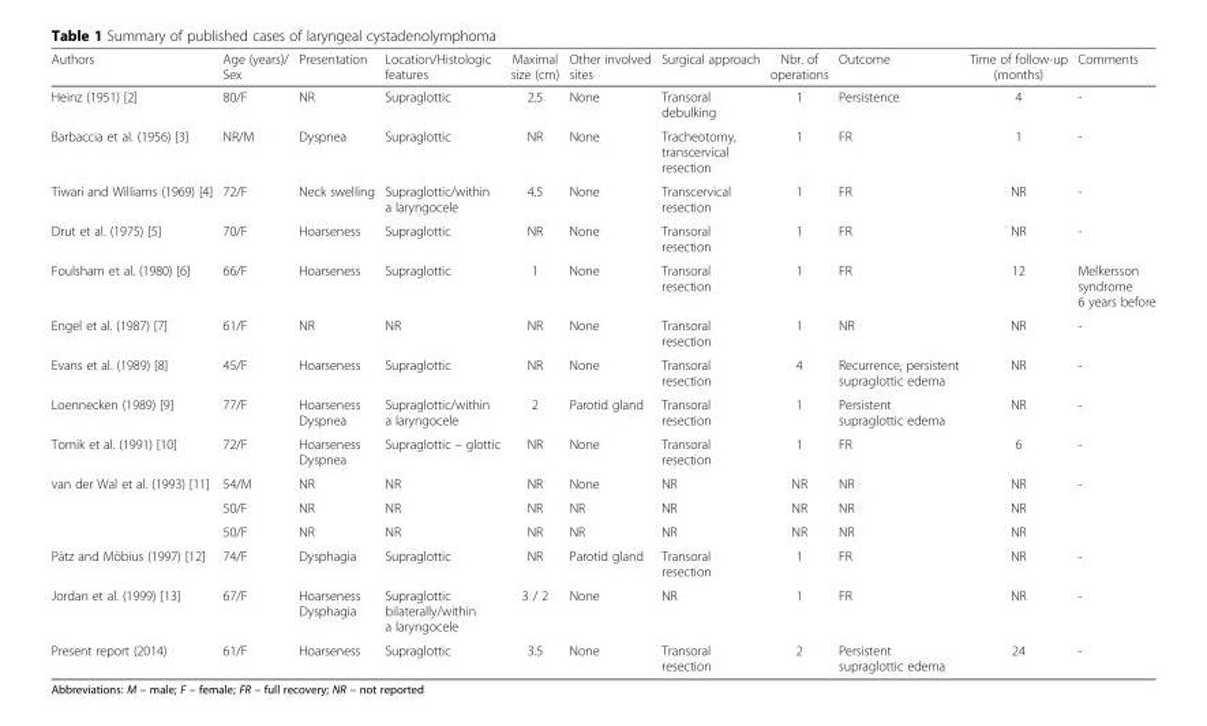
<table><thead><tr><td>Authors</td><td>Age (years)/ Sex</td><td>Presentation</td><td>Location/Histologic features</td><td>Maximal size (cm)</td><td>Other involved sites</td><td>Surgical approach</td><td>Nbr. of operations</td><td>Outcome</td><td>Time of follow-up (months)</td><td>Comments</td></tr></thead><tbody><tr><td>Heinz (1951) [2]</td><td>80/F</td><td>NR</td><td>Supraglottic</td><td>2.5</td><td>None</td><td>Transoral debulking</td><td>1</td><td>Persistence</td><td>4</td><td>-</td></tr><tr><td>Barbaccia et al. (1956) [3]</td><td>NR/M</td><td>Dyspnea</td><td>Supraglottic</td><td>NR</td><td>None</td><td>Tracheotomy, transcervical resection</td><td>1</td><td>FR</td><td>1</td><td>-</td></tr><tr><td>Tiwari and Williams (1969) [4]</td><td>72/F</td><td>Neck swelling</td><td>Supraglottic/within a laryngocele</td><td>4.5</td><td>None</td><td>Transcervical resection</td><td>1</td><td>FR</td><td>NR</td><td>-</td></tr><tr><td>Drut et al. (1975) [5]</td><td>70/F</td><td>Hoarseness</td><td>Supraglottic</td><td>NR</td><td>None</td><td>Transoral resection</td><td>1</td><td>FR</td><td>NR</td><td>-</td></tr><tr><td>Foulsham et al. (1980) [6]</td><td>66/F</td><td>Hoarseness</td><td>Supraglottic</td><td>1</td><td>None</td><td>Transoral resection</td><td>1</td><td>FR</td><td>12</td><td>Melkersson syndrome 6 years before</td></tr><tr><td>Engel et al. (1987) [7]</td><td>61/F</td><td>NR</td><td>NR</td><td>NR</td><td>None</td><td>Transoral resection</td><td>1</td><td>NR</td><td>NR</td><td>-</td></tr><tr><td>Evans et al. (1989) [8]</td><td>45/F</td><td>Hoarseness</td><td>Supraglottic</td><td>NR</td><td>None</td><td>Transoral resection</td><td>4</td><td>Recurrence, persistent supraglottic edema</td><td>NR</td><td>-</td></tr><tr><td>Loennecken (1989) [9]</td><td>77/F</td><td>Hoarseness Dyspnea</td><td>Supraglottic/within a laryngocele</td><td>2</td><td>Parotid gland</td><td>Transoral resection</td><td>1</td><td>Persistent supraglottic edema</td><td>NR</td><td>-</td></tr><tr><td>Tomik et al. (1991) [10]</td><td>72/F</td><td>Hoarseness Dyspnea</td><td>Supraglottic – glottic</td><td>NR</td><td>None</td><td>Transoral resection</td><td>1</td><td>FR</td><td>6</td><td>-</td></tr><tr><td rowspan="3">van der Wal et al. (1993) [11]</td><td>54/M</td><td>NR</td><td>NR</td><td>NR</td><td>None</td><td>NR</td><td>NR</td><td>NR</td><td>NR</td><td rowspan="3">-</td></tr><tr><td>50/F</td><td>NR</td><td>NR</td><td>NR</td><td>NR</td><td>NR</td><td>NR</td><td>NR</td><td>NR</td></tr><tr><td>50/F</td><td>NR</td><td>NR</td><td>NR</td><td>NR</td><td>NR</td><td>NR</td><td>NR</td><td>NR</td></tr><tr><td>Pätz and Möbius (1997) [12]</td><td>74/F</td><td>Dysphagia</td><td>Supraglottic</td><td>NR</td><td>Parotid gland</td><td>Transoral resection</td><td>1</td><td>FR</td><td>NR</td><td>-</td></tr><tr><td>Jordan et al. (1999) [13]</td><td>67/F</td><td>Hoarseness Dysphagia</td><td>Supraglottic bilaterally/within a laryngocele</td><td>3 / 2</td><td>None</td><td>NR</td><td>1</td><td>FR</td><td>NR</td><td>-</td></tr><tr><td>Present report (2014)</td><td>61/F</td><td>Hoarseness</td><td>Supraglottic</td><td>3.5</td><td>None</td><td>Transoral resection</td><td>2</td><td>Persistent supraglottic edema</td><td>24</td><td>-</td></tr></tbody></table>